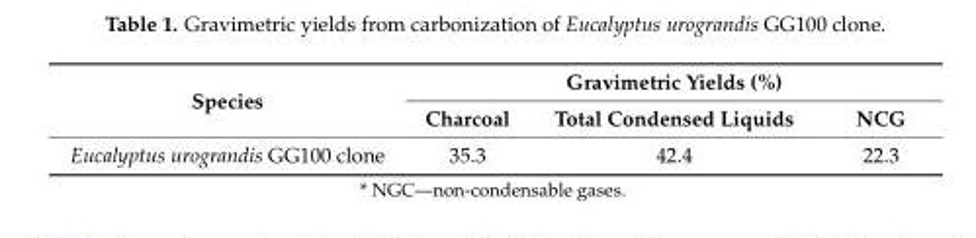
<table><thead><tr><td rowspan="2">Species</td><td colspan="3">Gravimetric Yields (%)</td></tr><tr><td>Charcoal</td><td>Total Condensed Liquids</td><td>NCG</td></tr></thead><tbody><tr><td>Eucalyptus urograndis GG100 clone</td><td>35.3</td><td>42.4</td><td>22.3</td></tr></tbody></table>